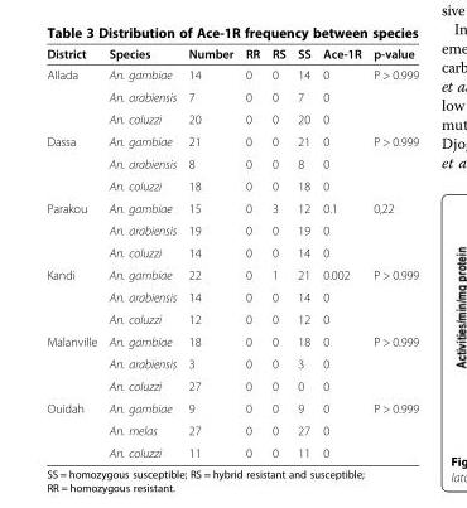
<table><thead><tr><td>District</td><td>Species</td><td>Number</td><td>RR</td><td>RS</td><td>SS</td><td>Ace-1R</td><td>p-value</td></tr></thead><tbody><tr><td rowspan="3">Allada</td><td>An. gambiae</td><td>14</td><td>0</td><td>0</td><td>14</td><td>0</td><td rowspan="3">P &gt; 0.999</td></tr><tr><td>An. arabiensis</td><td>7</td><td>0</td><td>0</td><td>7</td><td>0</td></tr><tr><td>An. coluzzi</td><td>20</td><td>0</td><td>0</td><td>20</td><td>0</td></tr><tr><td rowspan="3">Dassa</td><td>An. gambiae</td><td>21</td><td>0</td><td>0</td><td>21</td><td>0</td><td rowspan="3">P &gt; 0.999</td></tr><tr><td>An. arabiensis</td><td>8</td><td>0</td><td>0</td><td>8</td><td>0</td></tr><tr><td>An. coluzzi</td><td>18</td><td>0</td><td>0</td><td>18</td><td>0</td></tr><tr><td rowspan="3">Parakou</td><td>An. gambiae</td><td>15</td><td>0</td><td>3</td><td>12</td><td>0.1</td><td rowspan="3">0,22</td></tr><tr><td>An. arabiensis</td><td>19</td><td>0</td><td>0</td><td>19</td><td>0</td></tr><tr><td>An. coluzzi</td><td>14</td><td>0</td><td>0</td><td>14</td><td>0</td></tr><tr><td rowspan="3">Kandi</td><td>An. gambiae</td><td>22</td><td>0</td><td>1</td><td>21</td><td>0.002</td><td rowspan="3">P &gt; 0.999</td></tr><tr><td>An. arabiensis</td><td>14</td><td>0</td><td>0</td><td>14</td><td>0</td></tr><tr><td>An. coluzzi</td><td>12</td><td>0</td><td>0</td><td>12</td><td>0</td></tr><tr><td rowspan="3">Malanville</td><td>An. gambiae</td><td>18</td><td>0</td><td>0</td><td>18</td><td>0</td><td rowspan="3">P &gt; 0.999</td></tr><tr><td>An. arabiensis</td><td>3</td><td>0</td><td>0</td><td>3</td><td>0</td></tr><tr><td>An. coluzzi</td><td>27</td><td>0</td><td>0</td><td>0</td><td>0</td></tr><tr><td rowspan="3">Ouidah</td><td>An. gambiae</td><td>9</td><td>0</td><td>0</td><td>9</td><td>0</td><td rowspan="3">P &gt; 0.999</td></tr><tr><td>An. melas</td><td>27</td><td>0</td><td>0</td><td>27</td><td>0</td></tr><tr><td>An. coluzzi</td><td>11</td><td>0</td><td>0</td><td>11</td><td>0</td></tr></tbody></table>